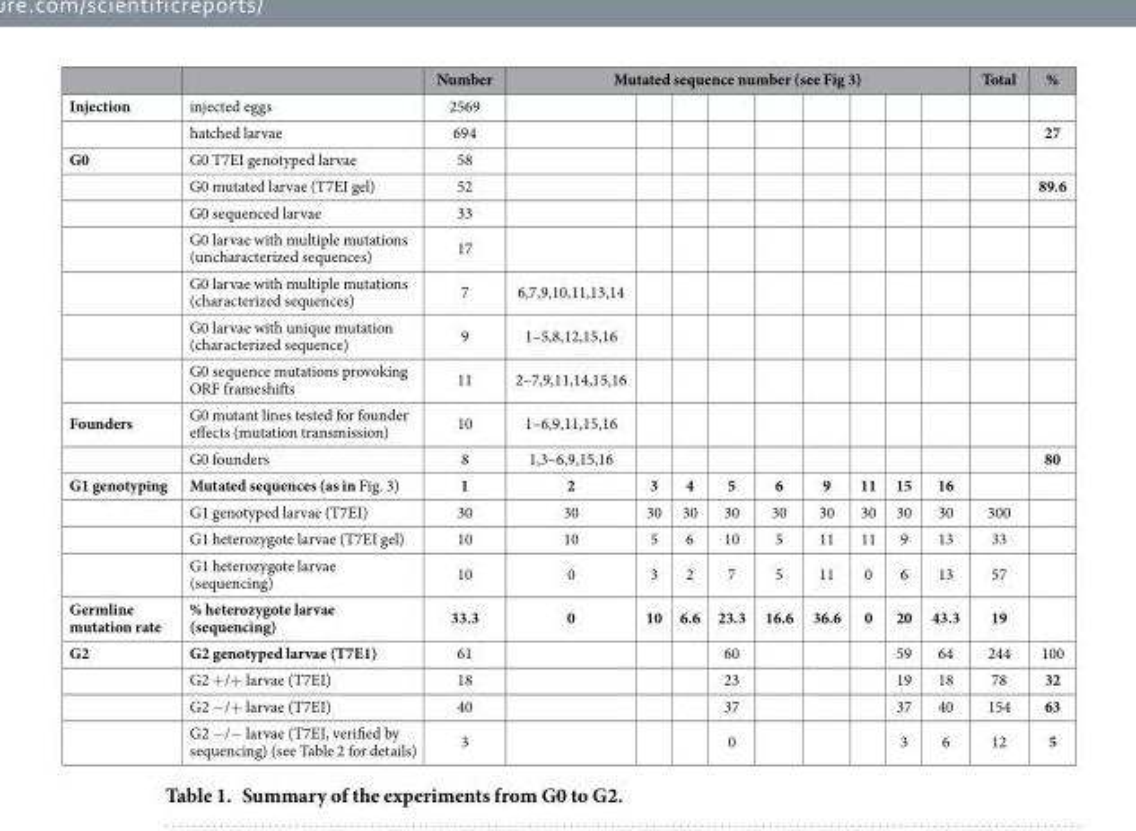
<table><thead><tr><td rowspan="2">Injection</td><td rowspan="2">injected eggs</td><td rowspan="2">Number 2569</td><td colspan="9">Mutated sequence number (see Fig 3)</td><td rowspan="2">Total</td><td rowspan="2">%</td></tr><tr><td></td><td></td><td></td><td></td><td></td><td></td><td></td><td></td><td></td></tr></thead><tbody><tr><td></td><td>hatched larvae</td><td>694</td><td></td><td></td><td></td><td></td><td></td><td></td><td></td><td></td><td></td><td></td><td>27</td></tr><tr><td rowspan="7">G0</td><td>G0 T7EI genotyped larvae</td><td>58</td><td></td><td></td><td></td><td></td><td></td><td></td><td></td><td></td><td></td><td></td><td></td></tr><tr><td>G0 mutated larvae (T7EI gel)</td><td>52</td><td></td><td></td><td></td><td></td><td></td><td></td><td></td><td></td><td></td><td></td><td>89.6</td></tr><tr><td>G0 sequenced larvae</td><td>33</td><td></td><td></td><td></td><td></td><td></td><td></td><td></td><td></td><td></td><td></td><td></td></tr><tr><td>G0 larvae with multiple mutations (uncharacterized sequences)</td><td>17</td><td></td><td></td><td></td><td></td><td></td><td></td><td></td><td></td><td></td><td></td><td></td></tr><tr><td>G0 larvae with multiple mutations (characterized sequences)</td><td>7</td><td>6,7,9,10,11,13,14</td><td></td><td></td><td></td><td></td><td></td><td></td><td></td><td></td><td></td><td></td></tr><tr><td>G0 larvae with unique mutation (characterized sequence)</td><td>9</td><td>1–5,8,12,15,16</td><td></td><td></td><td></td><td></td><td></td><td></td><td></td><td></td><td></td><td></td></tr><tr><td>G0 sequence mutations provoking ORF frameshifts</td><td>11</td><td>2–7,9,11,14,15,16</td><td></td><td></td><td></td><td></td><td></td><td></td><td></td><td></td><td></td><td></td></tr><tr><td rowspan="2">Founders</td><td>G0 mutant lines tested for founder effects (mutation transmission)</td><td>10</td><td>1–6,9,11,15,16</td><td></td><td></td><td></td><td></td><td></td><td></td><td></td><td></td><td></td><td></td></tr><tr><td>G0 founders</td><td>8</td><td>1,3–6,9,15,16</td><td></td><td></td><td></td><td></td><td></td><td></td><td></td><td></td><td></td><td>80</td></tr><tr><td rowspan="4">G1 genotyping</td><td>Mutated sequences (as in Fig. 3)</td><td>1</td><td>2</td><td>3</td><td>4</td><td>5</td><td>6</td><td>9</td><td>11</td><td>15</td><td>16</td><td></td><td></td></tr><tr><td>G1 genotyped larvae (T7EI)</td><td>30</td><td>30</td><td>30</td><td>30</td><td>30</td><td>30</td><td>30</td><td>30</td><td>30</td><td>30</td><td>300</td><td></td></tr><tr><td>G1 heterozygote larvae (T7EI gel)</td><td>10</td><td>10</td><td>5</td><td>6</td><td>10</td><td>5</td><td>11</td><td>11</td><td>9</td><td>13</td><td>33</td><td></td></tr><tr><td>G1 heterozygote larvae (sequencing)</td><td>10</td><td>0</td><td>3</td><td>2</td><td>7</td><td>5</td><td>11</td><td>0</td><td>6</td><td>13</td><td>57</td><td></td></tr><tr><td>Germline mutation rate</td><td>% heterozygote larvae (sequencing)</td><td>33.3</td><td>0</td><td>10</td><td>6.6</td><td>23.3</td><td>16.6</td><td>36.6</td><td>0</td><td>20</td><td>43.3</td><td>19</td><td></td></tr><tr><td rowspan="4">G2</td><td>G2 genotyped larvae (T7E1)</td><td>61</td><td></td><td></td><td></td><td>60</td><td></td><td></td><td></td><td>59</td><td>64</td><td>244</td><td>100</td></tr><tr><td>G2 + /+ larvae (T7EI)</td><td>18</td><td></td><td></td><td></td><td>23</td><td></td><td></td><td></td><td>19</td><td>18</td><td>78</td><td>32</td></tr><tr><td>G2 − /+ larvae (T7EI)</td><td>40</td><td></td><td></td><td></td><td>37</td><td></td><td></td><td></td><td>37</td><td>40</td><td>154</td><td>63</td></tr><tr><td>G2 − /− larvae (T7EI, verified by sequencing) (see Table 2 for details)</td><td>3</td><td></td><td></td><td></td><td>0</td><td></td><td></td><td></td><td>3</td><td>6</td><td>12</td><td>5</td></tr></tbody></table>